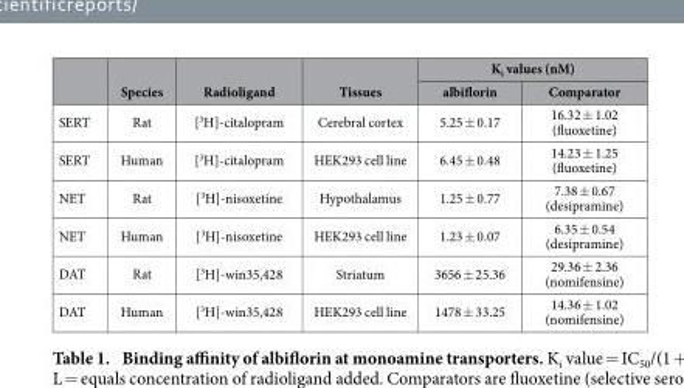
<table><thead><tr><td rowspan="2"></td><td rowspan="2">Species</td><td rowspan="2">Radioligand</td><td rowspan="2">Tissues</td><td colspan="2">K<sub>i</sub> values (nM)</td></tr><tr><td>albiflorin</td><td>Comparator</td></tr></thead><tbody><tr><td>SERT</td><td>Rat</td><td>[<sup>3</sup>H]-citalopram</td><td>Cerebral cortex</td><td>5.25 ± 0.17</td><td>16.32 ± 1.02 (fluoxetine)</td></tr><tr><td>SERT</td><td>Human</td><td>[<sup>3</sup>H]-citalopram</td><td>HEK293 cell line</td><td>6.45 ± 0.48</td><td>14.23 ± 1.25 (fluoxetine)</td></tr><tr><td>NET</td><td>Rat</td><td>[<sup>3</sup>H]-nisoxetine</td><td>Hypothalamus</td><td>1.25 ± 0.77</td><td>7.38 ± 0.67 (desipramine)</td></tr><tr><td>NET</td><td>Human</td><td>[<sup>3</sup>H]-nisoxetine</td><td>HEK293 cell line</td><td>1.23 ± 0.07</td><td>6.35 ± 0.54 (desipramine)</td></tr><tr><td>DAT</td><td>Rat</td><td>[<sup>3</sup>H]-win35,428</td><td>Striatum</td><td>3656 ± 25.36</td><td>29.36 ± 2.36 (nomifensine)</td></tr><tr><td>DAT</td><td>Human</td><td>[<sup>3</sup>H]-win35,428</td><td>HEK293 cell line</td><td>1478 ± 33.25</td><td>14.36 ± 1.02 (nomifensine)</td></tr></tbody></table>